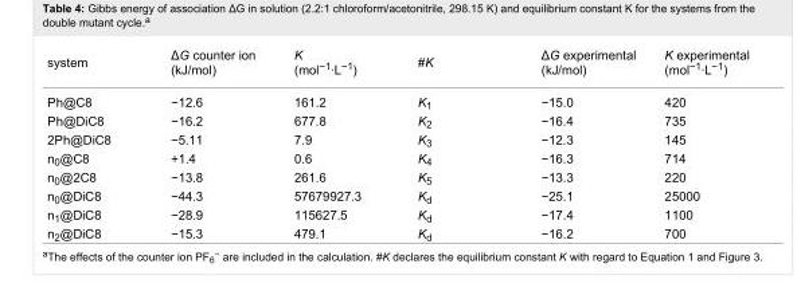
<table><tbody><tr><td>system</td><td>ΔG counter ion (kJ/mol)</td><td>K (mol<sup>−1</sup>·L<sup>−1</sup>)</td><td>#K</td><td>ΔG experimental (kJ/mol)</td><td>K experimental (mol<sup>−1</sup>·L<sup>−1</sup>)</td></tr><tr><td>Ph@C8</td><td>−12.6</td><td>161.2</td><td>K<sub>1</sub></td><td>−15.0</td><td>420</td></tr><tr><td>Ph@DiC8</td><td>−16.2</td><td>677.8</td><td>K<sub>2</sub></td><td>−16.4</td><td>735</td></tr><tr><td>2Ph@DiC8</td><td>−5.11</td><td>7.9</td><td>K<sub>3</sub></td><td>−12.3</td><td>145</td></tr><tr><td>n<sub>0</sub>@C8</td><td>+1.4</td><td>0.6</td><td>K<sub>4</sub></td><td>−16.3</td><td>714</td></tr><tr><td>n<sub>0</sub>@2C8</td><td>−13.8</td><td>261.6</td><td>K<sub>5</sub></td><td>−13.3</td><td>220</td></tr><tr><td>n<sub>0</sub>@DiC8</td><td>−44.3</td><td>57679927.3</td><td>K<sub>d</sub></td><td>−25.1</td><td>25000</td></tr><tr><td>n<sub>1</sub>@DiC8</td><td>−28.9</td><td>115627.5</td><td>K<sub>d</sub></td><td>−17.4</td><td>1100</td></tr><tr><td>n<sub>2</sub>@DiC8</td><td>−15.3</td><td>479.1</td><td>K<sub>d</sub></td><td>−16.2</td><td>700</td></tr></tbody></table>